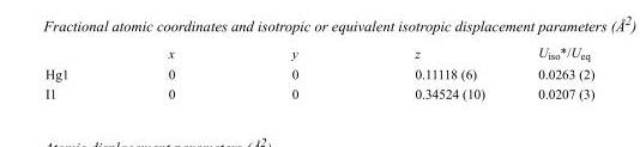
<table><thead><tr><td></td><td>x</td><td>y</td><td>z</td><td>U<sub>iso</sub>*/U<sub>eq</sub></td></tr></thead><tbody><tr><td>Hg1</td><td>0</td><td>0</td><td>0.11118 (6)</td><td>0.0263 (2)</td></tr><tr><td>I1</td><td>0</td><td>0</td><td>0.34524 (10)</td><td>0.0207 (3)</td></tr></tbody></table>